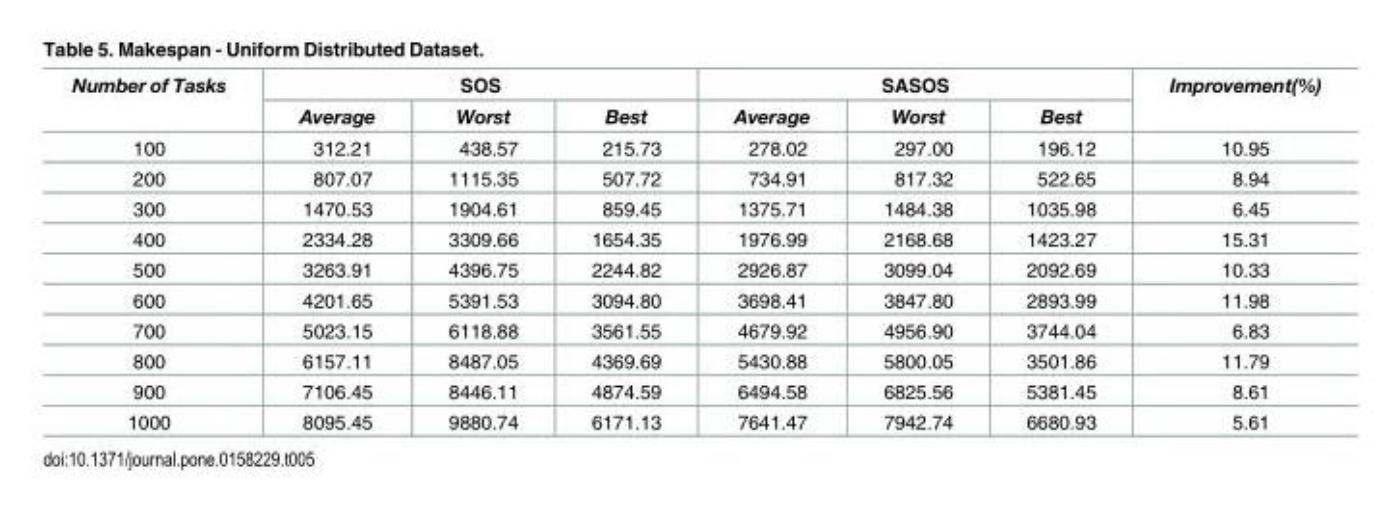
<table><thead><tr><td rowspan="2">Number of Tasks</td><td colspan="3">SOS</td><td colspan="3">SASOS</td><td rowspan="2">Improvement(%)</td></tr><tr><td>Average</td><td>Worst</td><td>Best</td><td>Average</td><td>Worst</td><td>Best</td></tr></thead><tbody><tr><td>100</td><td>312.21</td><td>438.57</td><td>215.73</td><td>278.02</td><td>297.00</td><td>196.12</td><td>10.95</td></tr><tr><td>200</td><td>807.07</td><td>1115.35</td><td>507.72</td><td>734.91</td><td>817.32</td><td>522.65</td><td>8.94</td></tr><tr><td>300</td><td>1470.53</td><td>1904.61</td><td>859.45</td><td>1375.71</td><td>1484.38</td><td>1035.98</td><td>6.45</td></tr><tr><td>400</td><td>2334.28</td><td>3309.66</td><td>1654.35</td><td>1976.99</td><td>2168.68</td><td>1423.27</td><td>15.31</td></tr><tr><td>500</td><td>3263.91</td><td>4396.75</td><td>2244.82</td><td>2926.87</td><td>3099.04</td><td>2092.69</td><td>10.33</td></tr><tr><td>600</td><td>4201.65</td><td>5391.53</td><td>3094.80</td><td>3698.41</td><td>3847.80</td><td>2893.99</td><td>11.98</td></tr><tr><td>700</td><td>5023.15</td><td>6118.88</td><td>3561.55</td><td>4679.92</td><td>4956.90</td><td>3744.04</td><td>6.83</td></tr><tr><td>800</td><td>6157.11</td><td>8487.05</td><td>4369.69</td><td>5430.88</td><td>5800.05</td><td>3501.86</td><td>11.79</td></tr><tr><td>900</td><td>7106.45</td><td>8446.11</td><td>4874.59</td><td>6494.58</td><td>6825.56</td><td>5381.45</td><td>8.61</td></tr><tr><td>1000</td><td>8095.45</td><td>9880.74</td><td>6171.13</td><td>7641.47</td><td>7942.74</td><td>6680.93</td><td>5.61</td></tr></tbody></table>